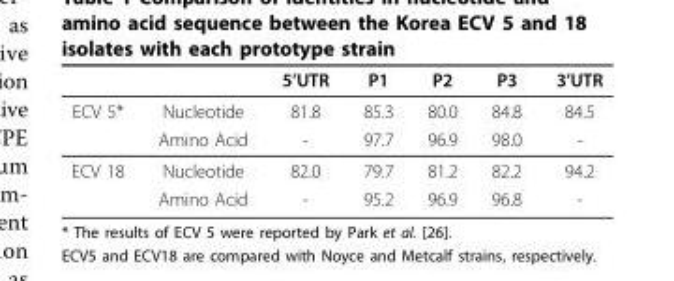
<table><thead><tr><td></td><td></td><td>5’UTR</td><td>P1</td><td>P2</td><td>P3</td><td>3’UTR</td></tr></thead><tbody><tr><td rowspan="2">ECV 5*</td><td>Nucleotide</td><td>81.8</td><td>85.3</td><td>80.0</td><td>84.8</td><td>84.5</td></tr><tr><td>Amino Acid</td><td>-</td><td>97.7</td><td>96.9</td><td>98.0</td><td>-</td></tr><tr><td rowspan="2">ECV 18</td><td>Nucleotide</td><td>82.0</td><td>79.7</td><td>81.2</td><td>82.2</td><td>94.2</td></tr><tr><td>Amino Acid</td><td>-</td><td>95.2</td><td>96.9</td><td>96.8</td><td>-</td></tr></tbody></table>